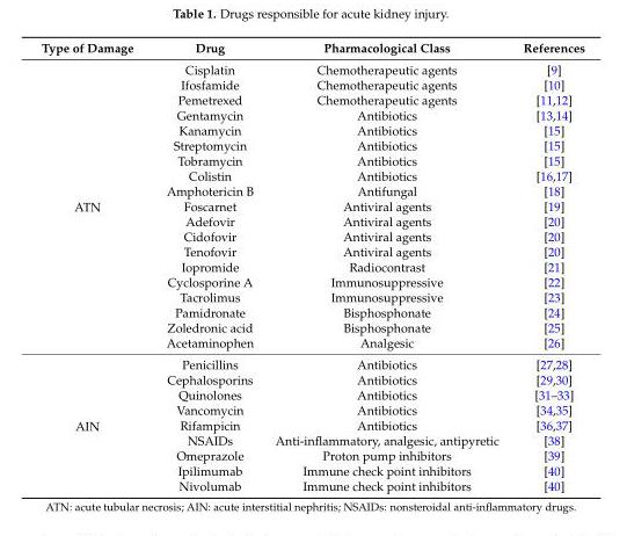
<table><thead><tr><td>Type of Damage</td><td>Drug</td><td>Pharmacological Class</td><td>References</td></tr></thead><tbody><tr><td rowspan="19">ATN</td><td>Cisplatin</td><td>Chemotherapeutic agents</td><td>[9]</td></tr><tr><td>Ifosfamide</td><td>Chemotherapeutic agents</td><td>[10]</td></tr><tr><td>Pemetrexed</td><td>Chemotherapeutic agents</td><td>[11,12]</td></tr><tr><td>Gentamycin</td><td>Antibiotics</td><td>[13,14]</td></tr><tr><td>Kanamycin</td><td>Antibiotics</td><td>[15]</td></tr><tr><td>Streptomycin</td><td>Antibiotics</td><td>[15]</td></tr><tr><td>Tobramycin</td><td>Antibiotics</td><td>[15]</td></tr><tr><td>Colistin</td><td>Antibiotics</td><td>[16,17]</td></tr><tr><td>Amphotericin B</td><td>Antifungal</td><td>[18]</td></tr><tr><td>Foscarnet</td><td>Antiviral agents</td><td>[19]</td></tr><tr><td>Adefovir</td><td>Antiviral agents</td><td>[20]</td></tr><tr><td>Cidofovir</td><td>Antiviral agents</td><td>[20]</td></tr><tr><td>Tenofovir</td><td>Antiviral agents</td><td>[20]</td></tr><tr><td>Iopromide</td><td>Radiocontrast</td><td>[21]</td></tr><tr><td>Cyclosporine A</td><td>Immunosuppressive</td><td>[22]</td></tr><tr><td>Tacrolimus</td><td>Immunosuppressive</td><td>[23]</td></tr><tr><td>Pamidronate</td><td>Bisphosphonate</td><td>[24]</td></tr><tr><td>Zoledronic acid</td><td>Bisphosphonate</td><td>[25]</td></tr><tr><td>Acetaminophen</td><td>Analgesic</td><td>[26]</td></tr><tr><td rowspan="9">AIN</td><td>Penicillins</td><td>Antibiotics</td><td>[27,28]</td></tr><tr><td>Cephalosporins</td><td>Antibiotics</td><td>[29,30]</td></tr><tr><td>Quinolones</td><td>Antibiotics</td><td>[31–33]</td></tr><tr><td>Vancomycin</td><td>Antibiotics</td><td>[34,35]</td></tr><tr><td>Rifampicin</td><td>Antibiotics</td><td>[36,37]</td></tr><tr><td>NSAIDs</td><td>Anti-inflammatory, analgesic, antipyretic</td><td>[38]</td></tr><tr><td>Omeprazole</td><td>Proton pump inhibitors</td><td>[39]</td></tr><tr><td>Ipilimumab</td><td>Immune check point inhibitors</td><td>[40]</td></tr><tr><td>Nivolumab</td><td>Immune check point inhibitors</td><td>[40]</td></tr></tbody></table>